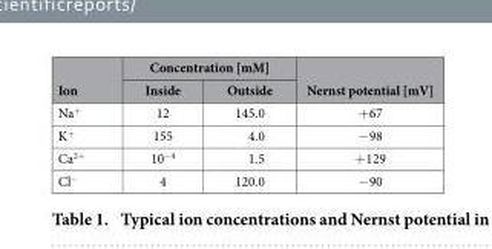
<table><thead><tr><td rowspan="2">Ion</td><td colspan="2">Concentration [mM]</td><td rowspan="2">Nernst potential [mV]</td></tr><tr><td>Inside</td><td>Outside</td></tr></thead><tbody><tr><td>Na<sup>+</sup></td><td>12</td><td>145.0</td><td>+ 67</td></tr><tr><td>K<sup>+</sup></td><td>155</td><td>4.0</td><td>− 98</td></tr><tr><td>Ca<sup>2+</sup></td><td>10<sup>−4</sup></td><td>1.5</td><td>+ 129</td></tr><tr><td>Cl<sup>−</sup></td><td>4</td><td>120.0</td><td>− 90</td></tr></tbody></table>